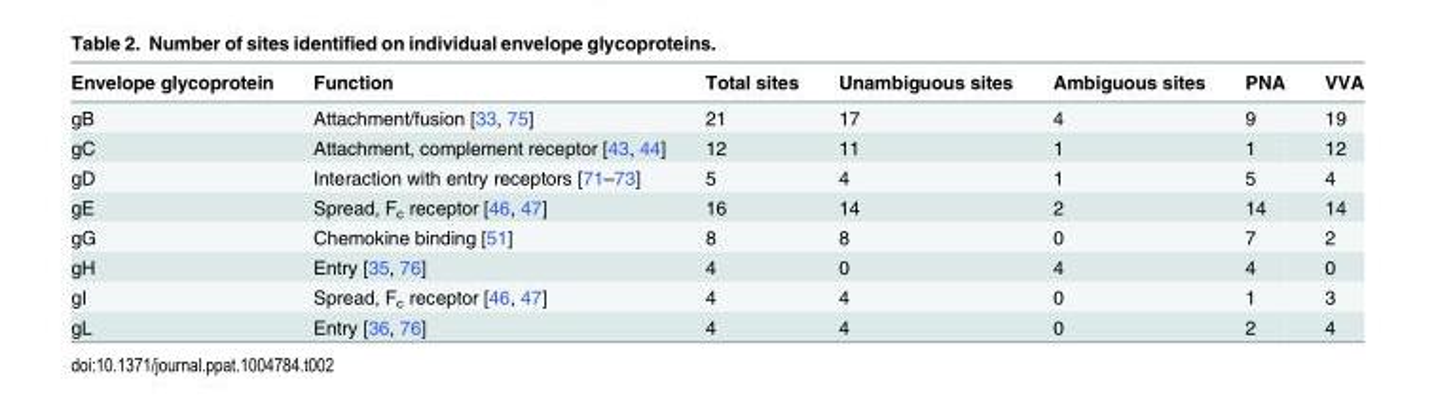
<table><thead><tr><td>Envelope glycoprotein</td><td>Function</td><td>Total sites</td><td>Unambiguous sites</td><td>Ambiguous sites</td><td>PNA</td><td>VVA</td></tr></thead><tbody><tr><td>gB</td><td>Attachment/fusion [33, 75]</td><td>21</td><td>17</td><td>4</td><td>9</td><td>19</td></tr><tr><td>gC</td><td>Attachment, complement receptor [43, 44]</td><td>12</td><td>11</td><td>1</td><td>1</td><td>12</td></tr><tr><td>gD</td><td>Interaction with entry receptors [71–73]</td><td>5</td><td>4</td><td>1</td><td>5</td><td>4</td></tr><tr><td>gE</td><td>Spread, F<sub>c</sub> receptor [46, 47]</td><td>16</td><td>14</td><td>2</td><td>14</td><td>14</td></tr><tr><td>gG</td><td>Chemokine binding [51]</td><td>8</td><td>8</td><td>0</td><td>7</td><td>2</td></tr><tr><td>gH</td><td>Entry [35, 76]</td><td>4</td><td>0</td><td>4</td><td>4</td><td>0</td></tr><tr><td>gI</td><td>Spread, F<sub>c</sub> receptor [46, 47]</td><td>4</td><td>4</td><td>0</td><td>1</td><td>3</td></tr><tr><td>gL</td><td>Entry [36, 76]</td><td>4</td><td>4</td><td>0</td><td>2</td><td>4</td></tr></tbody></table>